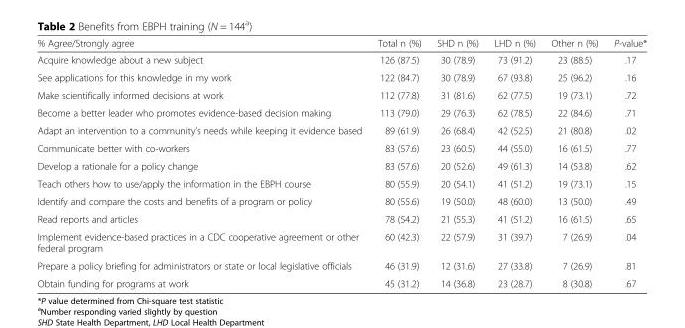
<table><thead><tr><td>% Agree/Strongly agree</td><td>Total n (%)</td><td>SHD n (%)</td><td>LHD n (%)</td><td>Other n (%)</td><td>P-value*</td></tr></thead><tbody><tr><td>Acquire knowledge about a new subject</td><td>126 (87.5)</td><td>30 (78.9)</td><td>73 (91.2)</td><td>23 (88.5)</td><td>.17</td></tr><tr><td>See applications for this knowledge in my work</td><td>122 (84.7)</td><td>30 (78.9)</td><td>67 (93.8)</td><td>25 (96.2)</td><td>.16</td></tr><tr><td>Make scientifically informed decisions at work</td><td>112 (77.8)</td><td>31 (81.6)</td><td>62 (77.5)</td><td>19 (73.1)</td><td>.72</td></tr><tr><td>Become a better leader who promotes evidence-based decision making</td><td>113 (79.0)</td><td>29 (76.3)</td><td>62 (78.5)</td><td>22 (84.6)</td><td>.71</td></tr><tr><td>Adapt an intervention to a community’s needs while keeping it evidence based</td><td>89 (61.9)</td><td>26 (68.4)</td><td>42 (52.5)</td><td>21 (80.8)</td><td>.02</td></tr><tr><td>Communicate better with co-workers</td><td>83 (57.6)</td><td>23 (60.5)</td><td>44 (55.0)</td><td>16 (61.5)</td><td>.77</td></tr><tr><td>Develop a rationale for a policy change</td><td>83 (57.6)</td><td>20 (52.6)</td><td>49 (61.3)</td><td>14 (53.8)</td><td>.62</td></tr><tr><td>Teach others how to use/apply the information in the EBPH course</td><td>80 (55.9)</td><td>20 (54.1)</td><td>41 (51.2)</td><td>19 (73.1)</td><td>.15</td></tr><tr><td>Identify and compare the costs and benefits of a program or policy</td><td>80 (55.6)</td><td>19 (50.0)</td><td>48 (60.0)</td><td>13 (50.0)</td><td>.49</td></tr><tr><td>Read reports and articles</td><td>78 (54.2)</td><td>21 (55.3)</td><td>41 (51.2)</td><td>16 (61.5)</td><td>.65</td></tr><tr><td>Implement evidence-based practices in a CDC cooperative agreement or other federal program</td><td>60 (42.3)</td><td>22 (57.9)</td><td>31 (39.7)</td><td>7 (26.9)</td><td>.04</td></tr><tr><td>Prepare a policy briefing for administrators or state or local legislative officials</td><td>46 (31.9)</td><td>12 (31.6)</td><td>27 (33.8)</td><td>7 (26.9)</td><td>.81</td></tr><tr><td>Obtain funding for programs at work</td><td>45 (31.2)</td><td>14 (36.8)</td><td>23 (28.7)</td><td>8 (30.8)</td><td>.67</td></tr></tbody></table>